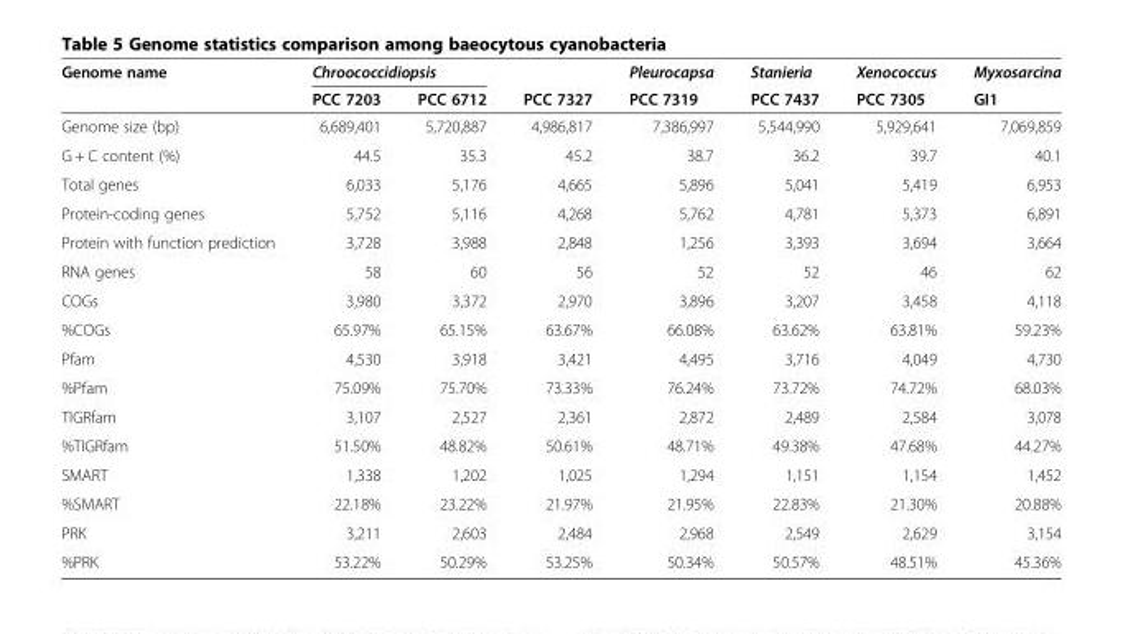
<table><thead><tr><td rowspan="2">Genome name</td><td colspan="2">Chroococcidiopsis</td><td rowspan="2">PCC 7327</td><td rowspan="2">Pleurocapsa PCC 7319</td><td rowspan="2">Stanieria PCC 7437</td><td rowspan="2">Xenococcus PCC 7305</td><td rowspan="2">Myxosarcina GI1</td></tr><tr><td>PCC 7203</td><td>PCC 6712</td></tr></thead><tbody><tr><td>Genome size (bp)</td><td>6,689,401</td><td>5,720,887</td><td>4,986,817</td><td>7,386,997</td><td>5,544,990</td><td>5,929,641</td><td>7,069,859</td></tr><tr><td>G + C content (%)</td><td>44.5</td><td>35.3</td><td>45.2</td><td>38.7</td><td>36.2</td><td>39.7</td><td>40.1</td></tr><tr><td>Total genes</td><td>6,033</td><td>5,176</td><td>4,665</td><td>5,896</td><td>5,041</td><td>5,419</td><td>6,953</td></tr><tr><td>Protein-coding genes</td><td>5,752</td><td>5,116</td><td>4,268</td><td>5,762</td><td>4,781</td><td>5,373</td><td>6,891</td></tr><tr><td>Protein with function prediction</td><td>3,728</td><td>3,988</td><td>2,848</td><td>1,256</td><td>3,393</td><td>3,694</td><td>3,664</td></tr><tr><td>RNA genes</td><td>58</td><td>60</td><td>56</td><td>52</td><td>52</td><td>46</td><td>62</td></tr><tr><td>COGs</td><td>3,980</td><td>3,372</td><td>2,970</td><td>3,896</td><td>3,207</td><td>3,458</td><td>4,118</td></tr><tr><td>%COGs</td><td>65.97%</td><td>65.15%</td><td>63.67%</td><td>66.08%</td><td>63.62%</td><td>63.81%</td><td>59.23%</td></tr><tr><td>Pfam</td><td>4,530</td><td>3,918</td><td>3,421</td><td>4,495</td><td>3,716</td><td>4,049</td><td>4,730</td></tr><tr><td>%Pfam</td><td>75.09%</td><td>75.70%</td><td>73.33%</td><td>76.24%</td><td>73.72%</td><td>74.72%</td><td>68.03%</td></tr><tr><td>TIGRfam</td><td>3,107</td><td>2,527</td><td>2,361</td><td>2,872</td><td>2,489</td><td>2,584</td><td>3,078</td></tr><tr><td>%TIGRfam</td><td>51.50%</td><td>48.82%</td><td>50.61%</td><td>48.71%</td><td>49.38%</td><td>47.68%</td><td>44.27%</td></tr><tr><td>SMART</td><td>1,338</td><td>1,202</td><td>1,025</td><td>1,294</td><td>1,151</td><td>1,154</td><td>1,452</td></tr><tr><td>%SMART</td><td>22.18%</td><td>23.22%</td><td>21.97%</td><td>21.95%</td><td>22.83%</td><td>21.30%</td><td>20.88%</td></tr><tr><td>PRK</td><td>3,211</td><td>2,603</td><td>2,484</td><td>2,968</td><td>2,549</td><td>2,629</td><td>3,154</td></tr><tr><td>%PRK</td><td>53.22%</td><td>50.29%</td><td>53.25%</td><td>50.34%</td><td>50.57%</td><td>48.51%</td><td>45.36%</td></tr></tbody></table>